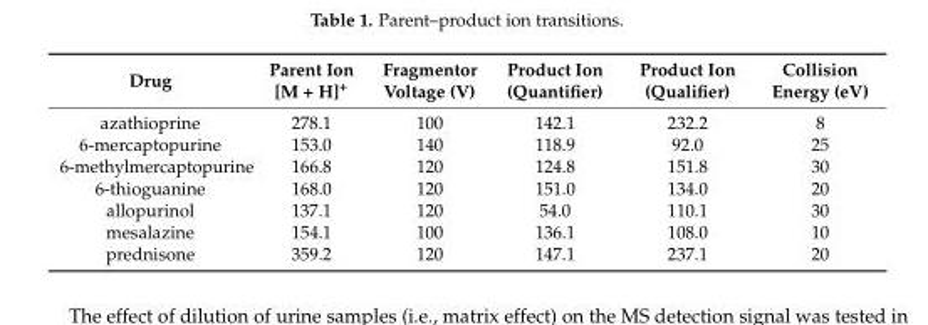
<table><thead><tr><td>Drug</td><td>Parent Ion [M + H]<sup>+</sup></td><td>Fragmentor Voltage (V)</td><td>Product Ion (Quantifier)</td><td>Product Ion (Qualifier)</td><td>Collision Energy (eV)</td></tr></thead><tbody><tr><td>azathioprine</td><td>278.1</td><td>100</td><td>142.1</td><td>232.2</td><td>8</td></tr><tr><td>6-mercaptopurine</td><td>153.0</td><td>140</td><td>118.9</td><td>92.0</td><td>25</td></tr><tr><td>6-methylmercaptopurine</td><td>166.8</td><td>120</td><td>124.8</td><td>151.8</td><td>30</td></tr><tr><td>6-thioguanine</td><td>168.0</td><td>120</td><td>151.0</td><td>134.0</td><td>20</td></tr><tr><td>allopurinol</td><td>137.1</td><td>120</td><td>54.0</td><td>110.1</td><td>30</td></tr><tr><td>mesalazine</td><td>154.1</td><td>100</td><td>136.1</td><td>108.0</td><td>10</td></tr><tr><td>prednisone</td><td>359.2</td><td>120</td><td>147.1</td><td>237.1</td><td>20</td></tr></tbody></table>